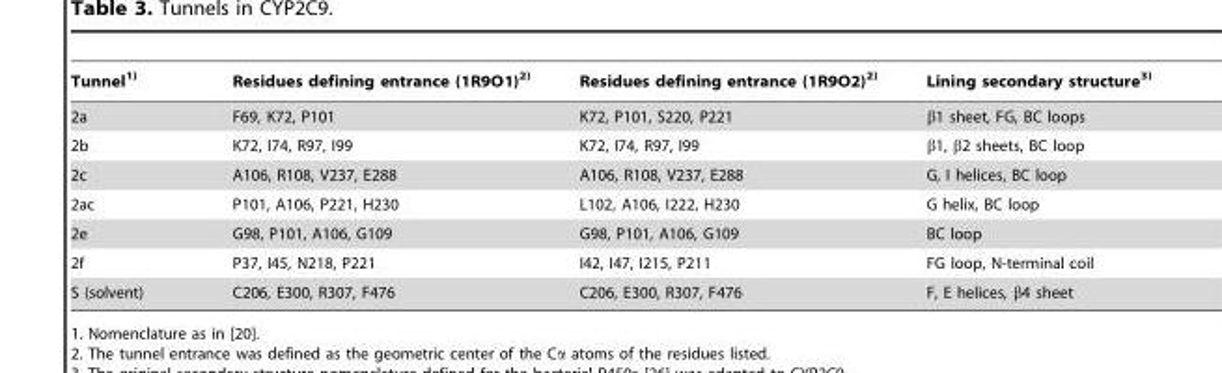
<table><thead><tr><td>Tunnel<sup>1)</sup></td><td>Residues defining entrance (1R9O1)<sup>2)</sup></td><td>Residues defining entrance (1R9O2)<sup>2)</sup></td><td>Lining secondary structure<sup>3)</sup></td></tr></thead><tbody><tr><td>2a</td><td>F69, K72, P101</td><td>K72, P101, S220, P221</td><td>β1 sheet, FG, BC loops</td></tr><tr><td>2b</td><td>K72, I74, R97, I99</td><td>K72, I74, R97, I99</td><td>β1, β2 sheets, BC loop</td></tr><tr><td>2c</td><td>A106, R108, V237, E288</td><td>A106, R108, V237, E288</td><td>G, I helices, BC loop</td></tr><tr><td>2ac</td><td>P101, A106, P221, H230</td><td>L102, A106, I222, H230</td><td>G helix, BC loop</td></tr><tr><td>2e</td><td>G98, P101, A106, G109</td><td>G98, P101, A106, G109</td><td>BC loop</td></tr><tr><td>2f</td><td>P37, I45, N218, P221</td><td>I42, I47, I215, P211</td><td>FG loop, N-terminal coil</td></tr><tr><td>S (solvent)</td><td>C206, E300, R307, F476</td><td>C206, E300, R307, F476</td><td>F, E helices, β4 sheet</td></tr></tbody></table>